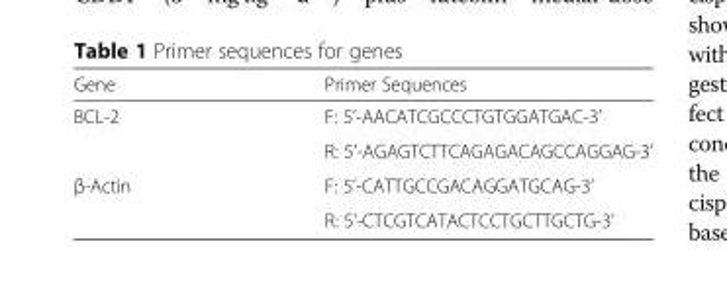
<table><thead><tr><td>Gene</td><td>Primer Sequences</td></tr></thead><tbody><tr><td rowspan="2">BCL-2</td><td>F: 5’-AACATCGCCCTGTGGATGAC-3’</td></tr><tr><td>R: 5’-AGAGTCTTCAGAGACAGCCAGGAG-3’</td></tr><tr><td rowspan="2">β-Actin</td><td>F: 5’-CATTGCCGACAGGATGCAG-3’</td></tr><tr><td>R: 5’-CTCGTCATACTCCTGCTTGCTG-3’</td></tr></tbody></table>